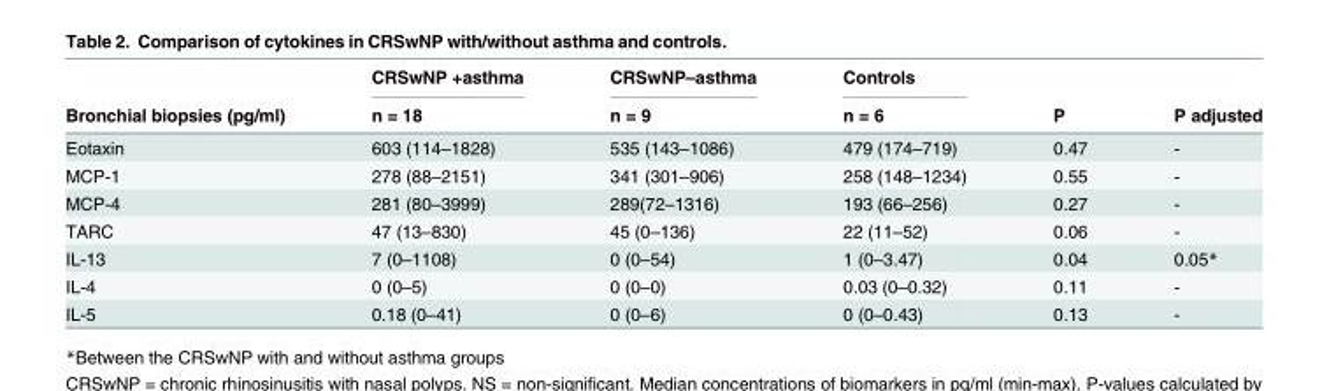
<table><thead><tr><td rowspan="2">Bronchial biopsies (pg/ml)</td><td rowspan="2">CRSwNP +asthma n = 18</td><td rowspan="2">CRSwNP–asthma n = 9</td><td rowspan="2">Controls n = 6</td><td rowspan="2">P</td><td rowspan="2">P adjusted</td></tr><tr></tr></thead><tbody><tr><td>Eotaxin</td><td>603 (114–1828)</td><td>535 (143–1086)</td><td>479 (174–719)</td><td>0.47</td><td>-</td></tr><tr><td>MCP-1</td><td>278 (88–2151)</td><td>341 (301–906)</td><td>258 (148–1234)</td><td>0.55</td><td>-</td></tr><tr><td>MCP-4</td><td>281 (80–3999)</td><td>289(72–1316)</td><td>193 (66–256)</td><td>0.27</td><td>-</td></tr><tr><td>TARC</td><td>47 (13–830)</td><td>45 (0–136)</td><td>22 (11–52)</td><td>0.06</td><td>-</td></tr><tr><td>IL-13</td><td>7 (0–1108)</td><td>0 (0–54)</td><td>1 (0–3.47)</td><td>0.04</td><td>0.05*</td></tr><tr><td>IL-4</td><td>0 (0–5)</td><td>0 (0–0)</td><td>0.03 (0–0.32)</td><td>0.11</td><td>-</td></tr><tr><td>IL-5</td><td>0.18 (0–41)</td><td>0 (0–6)</td><td>0 (0–0.43)</td><td>0.13</td><td>-</td></tr></tbody></table>